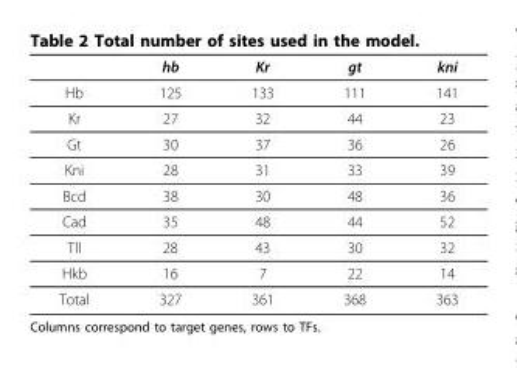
<table><thead><tr><td></td><td>hb</td><td>Kr</td><td>gt</td><td>kni</td></tr></thead><tbody><tr><td>Hb</td><td>125</td><td>133</td><td>111</td><td>141</td></tr><tr><td>Kr</td><td>27</td><td>32</td><td>44</td><td>23</td></tr><tr><td>Gt</td><td>30</td><td>37</td><td>36</td><td>26</td></tr><tr><td>Kni</td><td>28</td><td>31</td><td>33</td><td>39</td></tr><tr><td>Bcd</td><td>38</td><td>30</td><td>48</td><td>36</td></tr><tr><td>Cad</td><td>35</td><td>48</td><td>44</td><td>52</td></tr><tr><td>Tll</td><td>28</td><td>43</td><td>30</td><td>32</td></tr><tr><td>Hkb</td><td>16</td><td>7</td><td>22</td><td>14</td></tr><tr><td>Total</td><td>327</td><td>361</td><td>368</td><td>363</td></tr></tbody></table>